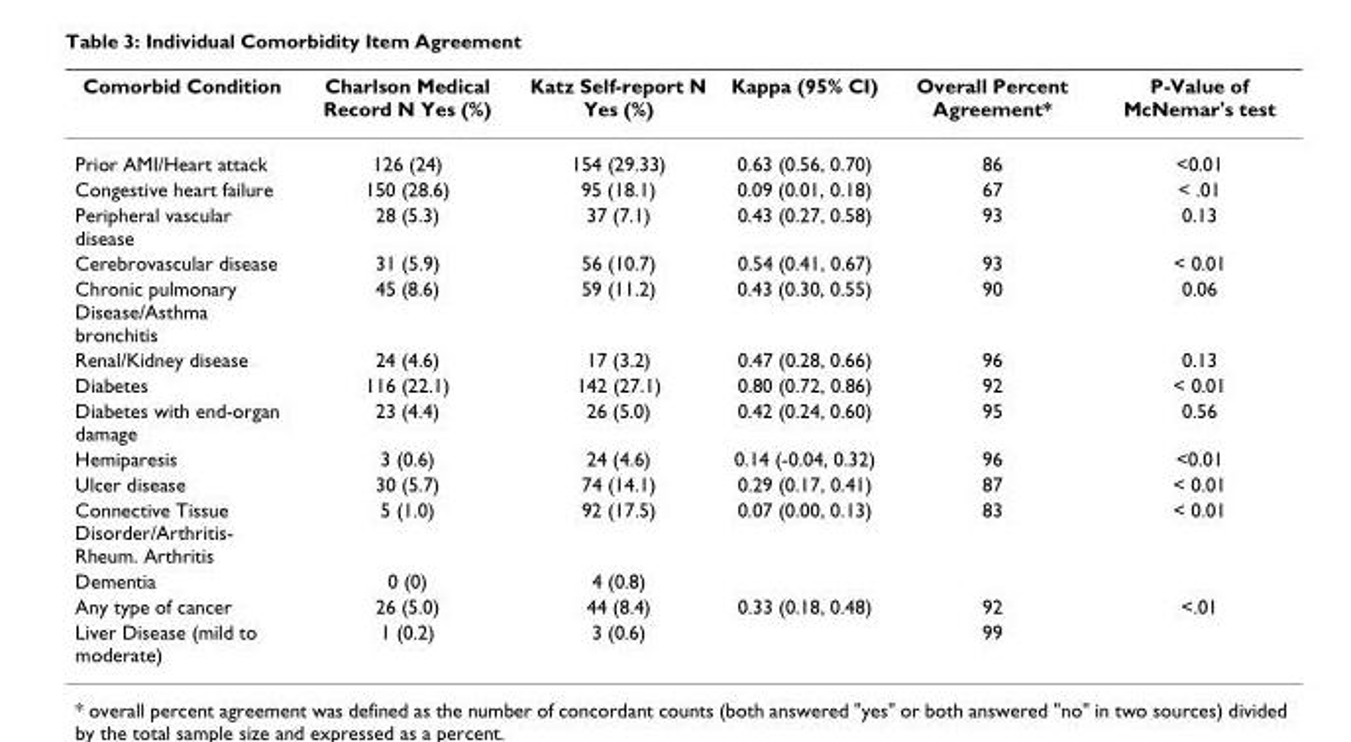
<table><thead><tr><td>Comorbid Condition</td><td>Charlson Medical Record N Yes (%)</td><td>Katz Self-report N Yes (%)</td><td>Kappa (95% CI)</td><td>Overall Percent Agreement*</td><td>P-Value of McNemar&#x27;s test</td></tr></thead><tbody><tr><td>Prior AMI/Heart attack</td><td>126 (24)</td><td>154 (29.33)</td><td>0.63 (0.56, 0.70)</td><td>86</td><td>&lt;0.01</td></tr><tr><td>Congestive heart failure</td><td>150 (28.6)</td><td>95 (18.1)</td><td>0.09 (0.01, 0.18)</td><td>67</td><td>&lt; .01</td></tr><tr><td>Peripheral vascular disease</td><td>28 (5.3)</td><td>37 (7.1)</td><td>0.43 (0.27, 0.58)</td><td>93</td><td>0.13</td></tr><tr><td>Cerebrovascular disease</td><td>31 (5.9)</td><td>56 (10.7)</td><td>0.54 (0.41, 0.67)</td><td>93</td><td>&lt; 0.01</td></tr><tr><td>Chronic pulmonary Disease/Asthma bronchitis</td><td>45 (8.6)</td><td>59 (11.2)</td><td>0.43 (0.30, 0.55)</td><td>90</td><td>0.06</td></tr><tr><td>Renal/Kidney disease</td><td>24 (4.6)</td><td>17 (3.2)</td><td>0.47 (0.28, 0.66)</td><td>96</td><td>0.13</td></tr><tr><td>Diabetes</td><td>116 (22.1)</td><td>142 (27.1)</td><td>0.80 (0.72, 0.86)</td><td>92</td><td>&lt; 0.01</td></tr><tr><td>Diabetes with end-organ damage</td><td>23 (4.4)</td><td>26 (5.0)</td><td>0.42 (0.24, 0.60)</td><td>95</td><td>0.56</td></tr><tr><td>Hemiparesis</td><td>3 (0.6)</td><td>24 (4.6)</td><td>0.14 (-0.04, 0.32)</td><td>96</td><td>&lt;0.01</td></tr><tr><td>Ulcer disease</td><td>30 (5.7)</td><td>74 (14.1)</td><td>0.29 (0.17, 0.41)</td><td>87</td><td>&lt; 0.01</td></tr><tr><td>Connective Tissue Disorder/Arthritis- Rheum. Arthritis</td><td>5 (1.0)</td><td>92 (17.5)</td><td>0.07 (0.00, 0.13)</td><td>83</td><td>&lt; 0.01</td></tr><tr><td>Dementia</td><td>0 (0)</td><td>4 (0.8)</td><td></td><td></td><td></td></tr><tr><td>Any type of cancer</td><td>26 (5.0)</td><td>44 (8.4)</td><td>0.33 (0.18, 0.48)</td><td>92</td><td>&lt;.01</td></tr><tr><td>Liver Disease (mild to moderate)</td><td>1 (0.2)</td><td>3 (0.6)</td><td></td><td>99</td><td></td></tr></tbody></table>